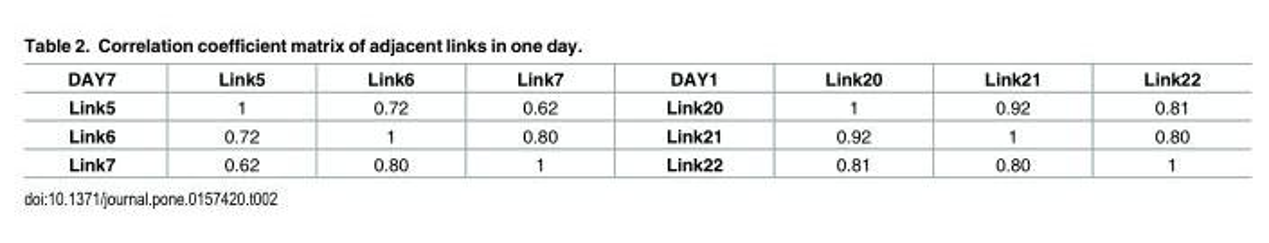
<table><tbody><tr><td>DAY7</td><td>Link5</td><td>Link6</td><td>Link7</td><td>DAY1</td><td>Link20</td><td>Link21</td><td>Link22</td></tr><tr><td>Link5</td><td>1</td><td>0.72</td><td>0.62</td><td>Link20</td><td>1</td><td>0.92</td><td>0.81</td></tr><tr><td>Link6</td><td>0.72</td><td>1</td><td>0.80</td><td>Link21</td><td>0.92</td><td>1</td><td>0.80</td></tr><tr><td>Link7</td><td>0.62</td><td>0.80</td><td>1</td><td>Link22</td><td>0.81</td><td>0.80</td><td>1</td></tr></tbody></table>